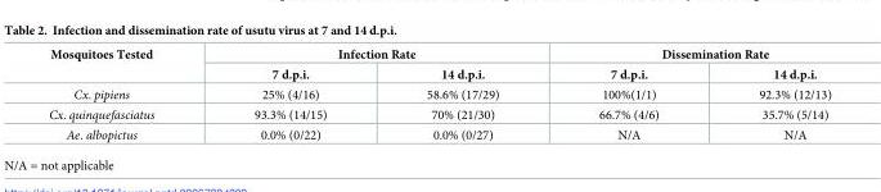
<table><thead><tr><td rowspan="2">Mosquitoes Tested</td><td colspan="2">Infection Rate</td><td colspan="2">Dissemination Rate</td></tr><tr><td>7 d.p.i.</td><td>14 d.p.i.</td><td>7 d.p.i.</td><td>14 d.p.i.</td></tr></thead><tbody><tr><td>Cx. pipiens</td><td>25% (4/16)</td><td>58.6% (17/29)</td><td>100%(1/1)</td><td>92.3% (12/13)</td></tr><tr><td>Cx. quinquefasciatus</td><td>93.3% (14/15)</td><td>70% (21/30)</td><td>66.7% (4/6)</td><td>35.7% (5/14)</td></tr><tr><td>Ae. albopictus</td><td>0.0% (0/22)</td><td>0.0% (0/27)</td><td>N/A</td><td>N/A</td></tr></tbody></table>